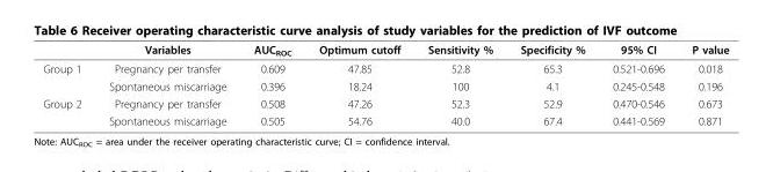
<table><thead><tr><td></td><td>Variables</td><td>AUC<sub>ROC</sub></td><td>Optimum cutoff</td><td>Sensitivity %</td><td>Specificity %</td><td>95% CI</td><td>P value</td></tr></thead><tbody><tr><td rowspan="2">Group 1</td><td>Pregnancy per transfer</td><td>0.609</td><td>47.85</td><td>52.8</td><td>65.3</td><td>0.521-0.696</td><td>0.018</td></tr><tr><td>Spontaneous miscarriage</td><td>0.396</td><td>18.24</td><td>100</td><td>4.1</td><td>0.245-0.548</td><td>0.196</td></tr><tr><td rowspan="2">Group 2</td><td>Pregnancy per transfer</td><td>0.508</td><td>47.26</td><td>52.3</td><td>52.9</td><td>0.470-0.546</td><td>0.673</td></tr><tr><td>Spontaneous miscarriage</td><td>0.505</td><td>54.76</td><td>40.0</td><td>67.4</td><td>0.441-0.569</td><td>0.871</td></tr></tbody></table>